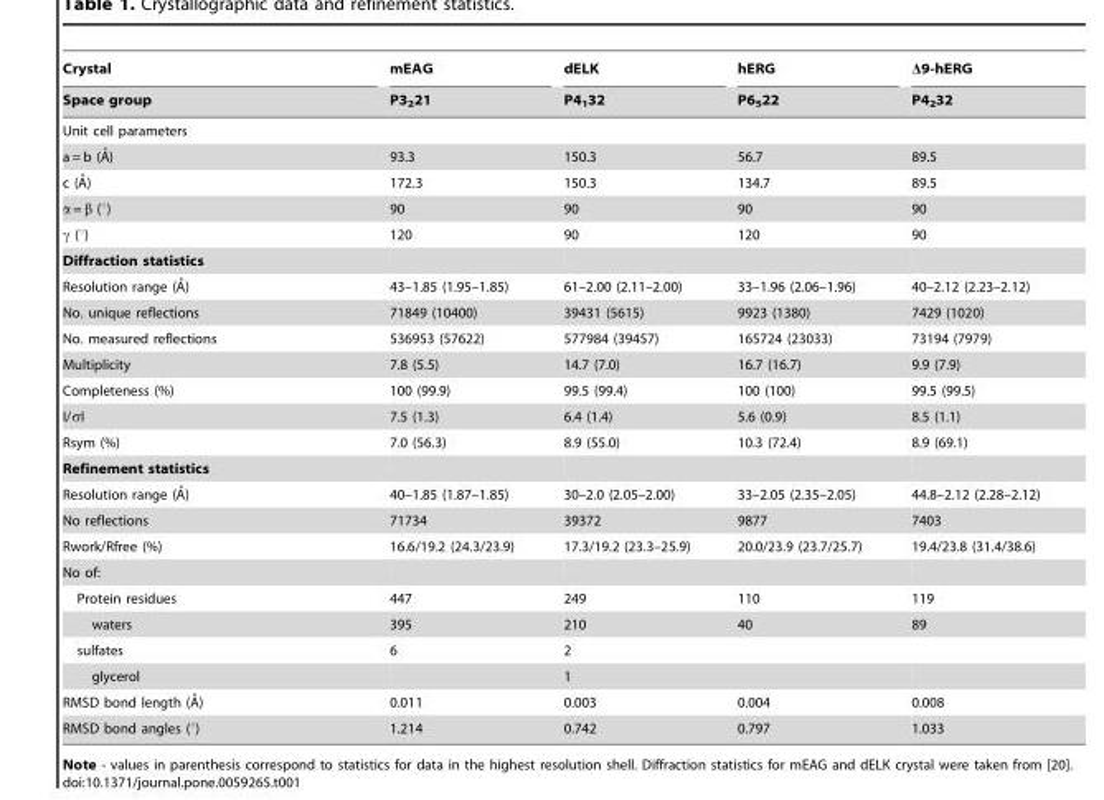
<table><thead><tr><td rowspan="2">Crystal Space group</td><td rowspan="2">mEAG P3<sub>2</sub>21</td><td rowspan="2">dELK P4<sub>1</sub>32</td><td rowspan="2">hERG P6<sub>5</sub>22</td><td rowspan="2">Δ9-hERG P4<sub>2</sub>32</td></tr><tr></tr></thead><tbody><tr><td colspan="5">Unit cell parameters</td></tr><tr><td>a = b (A˚)</td><td>93.3</td><td>150.3</td><td>56.7</td><td>89.5</td></tr><tr><td>c (A˚)</td><td>172.3</td><td>150.3</td><td>134.7</td><td>89.5</td></tr><tr><td>α = β (°)</td><td>90</td><td>90</td><td>90</td><td>90</td></tr><tr><td>γ (°)</td><td>120</td><td>90</td><td>120</td><td>90</td></tr><tr><td colspan="5">Diffraction statistics</td></tr><tr><td>Resolution range (A˚)</td><td>43–1.85 (1.95–1.85)</td><td>61–2.00 (2.11–2.00)</td><td>33–1.96 (2.06–1.96)</td><td>40–2.12 (2.23–2.12)</td></tr><tr><td>No. unique reflections</td><td>71849 (10400)</td><td>39431 (5615)</td><td>9923 (1380)</td><td>7429 (1020)</td></tr><tr><td>No. measured reflections</td><td>536953 (57622)</td><td>577984 (39457)</td><td>165724 (23033)</td><td>73194 (7979)</td></tr><tr><td>Multiplicity</td><td>7.8 (5.5)</td><td>14.7 (7.0)</td><td>16.7 (16.7)</td><td>9.9 (7.9)</td></tr><tr><td>Completeness (%)</td><td>100 (99.9)</td><td>99.5 (99.4)</td><td>100 (100)</td><td>99.5 (99.5)</td></tr><tr><td>I/σI</td><td>7.5 (1.3)</td><td>6.4 (1.4)</td><td>5.6 (0.9)</td><td>8.5 (1.1)</td></tr><tr><td>Rsym (%)</td><td>7.0 (56.3)</td><td>8.9 (55.0)</td><td>10.3 (72.4)</td><td>8.9 (69.1)</td></tr><tr><td colspan="5">Refinement statistics</td></tr><tr><td>Resolution range (A˚)</td><td>40–1.85 (1.87–1.85)</td><td>30–2.0 (2.05–2.00)</td><td>33–2.05 (2.35–2.05)</td><td>44.8–2.12 (2.28–2.12)</td></tr><tr><td>No reflections</td><td>71734</td><td>39372</td><td>9877</td><td>7403</td></tr><tr><td>Rwork/Rfree (%)</td><td>16.6/19.2 (24.3/23.9)</td><td>17.3/19.2 (23.3–25.9)</td><td>20.0/23.9 (23.7/25.7)</td><td>19.4/23.8 (31.4/38.6)</td></tr><tr><td colspan="5">No of:</td></tr><tr><td>Protein residues</td><td>447</td><td>249</td><td>110</td><td>119</td></tr><tr><td>waters</td><td>395</td><td>210</td><td>40</td><td>89</td></tr><tr><td>sulfates</td><td>6</td><td>2</td><td></td><td></td></tr><tr><td>glycerol</td><td></td><td>1</td><td></td><td></td></tr><tr><td>RMSD bond length (A˚)</td><td>0.011</td><td>0.003</td><td>0.004</td><td>0.008</td></tr><tr><td>RMSD bond angles (°)</td><td>1.214</td><td>0.742</td><td>0.797</td><td>1.033</td></tr></tbody></table>